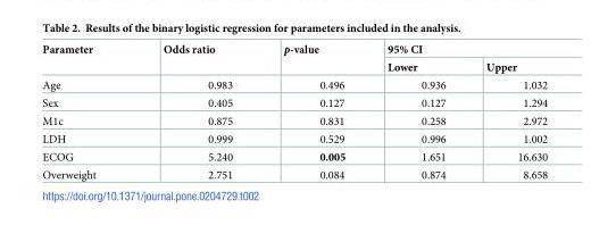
<table><thead><tr><td rowspan="2">Parameter</td><td rowspan="2">Odds ratio</td><td rowspan="2">p-value</td><td colspan="2">95% CI</td></tr><tr><td>Lower</td><td>Upper</td></tr></thead><tbody><tr><td>Age</td><td>0.983</td><td>0.496</td><td>0.936</td><td>1.032</td></tr><tr><td>Sex</td><td>0.405</td><td>0.127</td><td>0.127</td><td>1.294</td></tr><tr><td>M1c</td><td>0.875</td><td>0.831</td><td>0.258</td><td>2.972</td></tr><tr><td>LDH</td><td>0.999</td><td>0.529</td><td>0.996</td><td>1.002</td></tr><tr><td>ECOG</td><td>5.240</td><td>0.005</td><td>1.651</td><td>16.630</td></tr><tr><td>Overweight</td><td>2.751</td><td>0.084</td><td>0.874</td><td>8.658</td></tr></tbody></table>